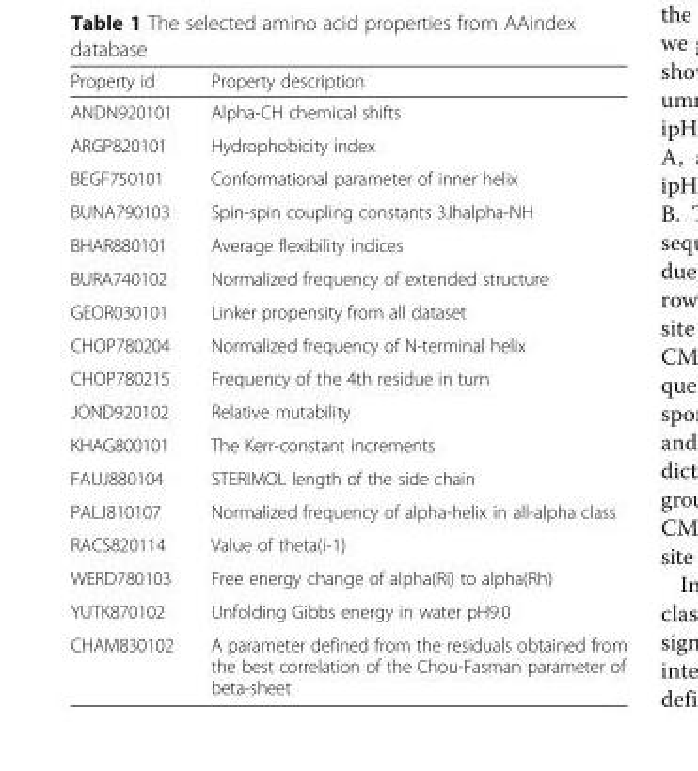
<table><thead><tr><td>Property id</td><td>Property description</td></tr></thead><tbody><tr><td>ANDN920101</td><td>Alpha-CH chemical shifts</td></tr><tr><td>ARGP820101</td><td>Hydrophobicity index</td></tr><tr><td>BEGF750101</td><td>Conformational parameter of inner helix</td></tr><tr><td>BUNA790103</td><td>Spin-spin coupling constants 3Jhalpha-NH</td></tr><tr><td>BHAR880101</td><td>Average flexibility indices</td></tr><tr><td>BURA740102</td><td>Normalized frequency of extended structure</td></tr><tr><td>GEOR030101</td><td>Linker propensity from all dataset</td></tr><tr><td>CHOP780204</td><td>Normalized frequency of N-terminal helix</td></tr><tr><td>CHOP780215</td><td>Frequency of the 4th residue in turn</td></tr><tr><td>JOND920102</td><td>Relative mutability</td></tr><tr><td>KHAG800101</td><td>The Kerr-constant increments</td></tr><tr><td>FAUJ880104</td><td>STERIMOL length of the side chain</td></tr><tr><td>PALJ810107</td><td>Normalized frequency of alpha-helix in all-alpha class</td></tr><tr><td>RACS820114</td><td>Value of theta(i-1)</td></tr><tr><td>WERD780103</td><td>Free energy change of alpha(Ri) to alpha(Rh)</td></tr><tr><td>YUTK870102</td><td>Unfolding Gibbs energy in water pH9.0</td></tr><tr><td>CHAM830102</td><td>A parameter defined from the residuals obtained from the best correlation of the Chou-Fasman parameter of beta-sheet</td></tr></tbody></table>